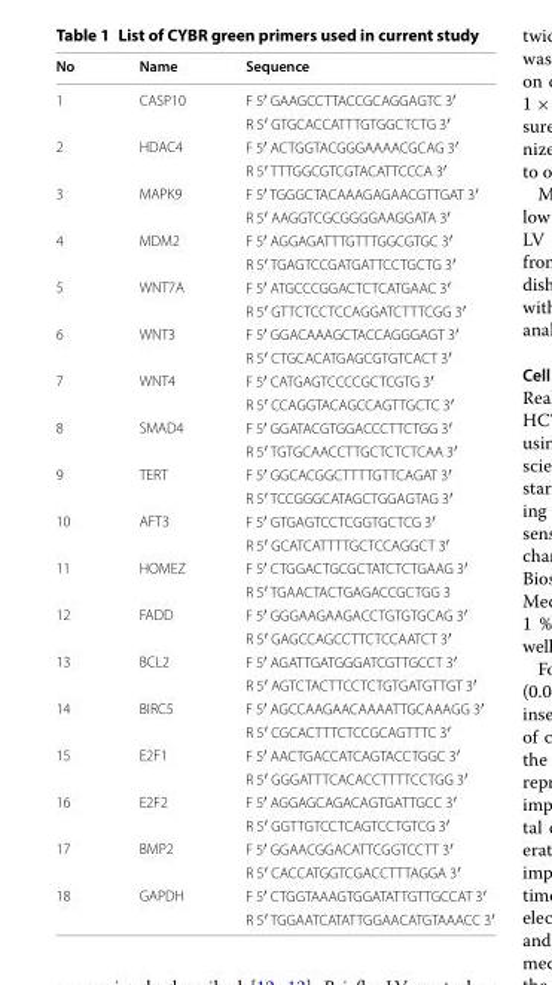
<table><thead><tr><td>No</td><td>Name</td><td>Sequence</td></tr></thead><tbody><tr><td rowspan="2">1</td><td rowspan="2">CASP10</td><td>F 5′ GAAGCCTTACCGCAGGAGTC 3′</td></tr><tr><td>R 5′ GTGCACCATTTGTGGCTCTG 3′</td></tr><tr><td rowspan="2">2</td><td rowspan="2">HDAC4</td><td>F 5′ ACTGGTACGGGAAAACGCAG 3′</td></tr><tr><td>R 5′ TTTGGCGTCGTACATTCCCA 3′</td></tr><tr><td rowspan="2">3</td><td rowspan="2">MAPK9</td><td>F 5′ TGGGCTACAAAGAGAACGTTGAT 3′</td></tr><tr><td>R 5′ AAGGTCGCGGGGAAGGATA 3′</td></tr><tr><td rowspan="2">4</td><td rowspan="2">MDM2</td><td>F 5′ AGGAGATTTGTTTGGCGTGC 3′</td></tr><tr><td>R 5′ TGAGTCCGATGATTCCTGCTG 3′</td></tr><tr><td rowspan="2">5</td><td rowspan="2">WNT7A</td><td>F 5′ ATGCCCGGACTCTCATGAAC 3′</td></tr><tr><td>R 5′ GTTCTCCTCCAGGATCTTTCGG 3′</td></tr><tr><td rowspan="2">6</td><td rowspan="2">WNT3</td><td>F 5′ GGACAAAGCTACCAGGGAGT 3′</td></tr><tr><td>R 5′ CTGCACATGAGCGTGTCACT 3′</td></tr><tr><td rowspan="2">7</td><td rowspan="2">WNT4</td><td>F 5′ CATGAGTCCCCGCTCGTG 3′</td></tr><tr><td>R 5′ CCAGGTACAGCCAGTTGCTC 3′</td></tr><tr><td rowspan="2">8</td><td rowspan="2">SMAD4</td><td>F 5′ GGATACGTGGACCCTTCTGG 3′</td></tr><tr><td>R 5′ TGTGCAACCTTGCTCTCTCAA 3′</td></tr><tr><td rowspan="2">9</td><td rowspan="2">TERT</td><td>F 5′ GGCACGGCTTTTGTTCAGAT 3′</td></tr><tr><td>R 5′ TCCGGGCATAGCTGGAGTAG 3′</td></tr><tr><td rowspan="2">10</td><td rowspan="2">AFT3</td><td>F 5′ GTGAGTCCTCGGTGCTCG 3′</td></tr><tr><td>R 5′ GCATCATTTTGCTCCAGGCT 3′</td></tr><tr><td rowspan="2">11</td><td rowspan="2">HOMEZ</td><td>F 5′ CTGGACTGCGCTATCTCTGAAG 3′</td></tr><tr><td>R 5′ TGAACTACTGAGACCGCTGG 3</td></tr><tr><td rowspan="2">12</td><td rowspan="2">FADD</td><td>F 5′ GGGAAGAAGACCTGTGTGCAG 3′</td></tr><tr><td>R 5′ GAGCCAGCCTTCTCCAATCT 3′</td></tr><tr><td rowspan="2">13</td><td rowspan="2">BCL2</td><td>F 5′ AGATTGATGGGATCGTTGCCT 3′</td></tr><tr><td>R 5′ AGTCTACTTCCTCTGTGATGTTGT 3′</td></tr><tr><td rowspan="2">14</td><td rowspan="2">BIRC5</td><td>F 5′ AGCCAAGAACAAAATTGCAAAGG 3′</td></tr><tr><td>R 5′ CGCACTTTCTCCGCAGTTTC 3′</td></tr><tr><td rowspan="2">15</td><td rowspan="2">E2F1</td><td>F 5′ AACTGACCATCAGTACCTGGC 3′</td></tr><tr><td>R 5′ GGGATTTCACACCTTTTCCTGG 3′</td></tr><tr><td rowspan="2">16</td><td rowspan="2">E2F2</td><td>F 5′ AGGAGCAGACAGTGATTGCC 3′</td></tr><tr><td>R 5′ GGTTGTCCTCAGTCCTGTCG 3′</td></tr><tr><td rowspan="2">17</td><td rowspan="2">BMP2</td><td>F 5′ GGAACGGACATTCGGTCCTT 3′</td></tr><tr><td>R 5′ CACCATGGTCGACCTTTAGGA 3′</td></tr><tr><td rowspan="2">18</td><td rowspan="2">GAPDH</td><td>F 5′ CTGGTAAAGTGGATATTGTTGCCAT 3′</td></tr><tr><td>R 5′ TGGAATCATATTGGAACATGTAAACC 3′</td></tr></tbody></table>